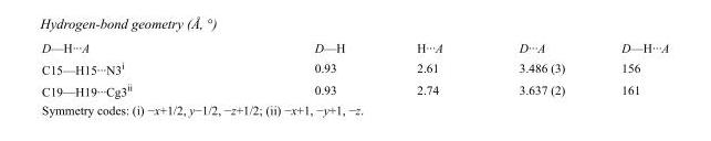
<table><tbody><tr><td>D—H···A</td><td>D—H</td><td>H···A</td><td>D···A</td><td>D—H···A</td></tr><tr><td>C15—H15···N3<sup>i</sup></td><td>0.93</td><td>2.61</td><td>3.486 (3)</td><td>156</td></tr><tr><td>C19—H19···Cg3<sup>ii</sup></td><td>0.93</td><td>2.74</td><td>3.637 (2)</td><td>161</td></tr></tbody></table>